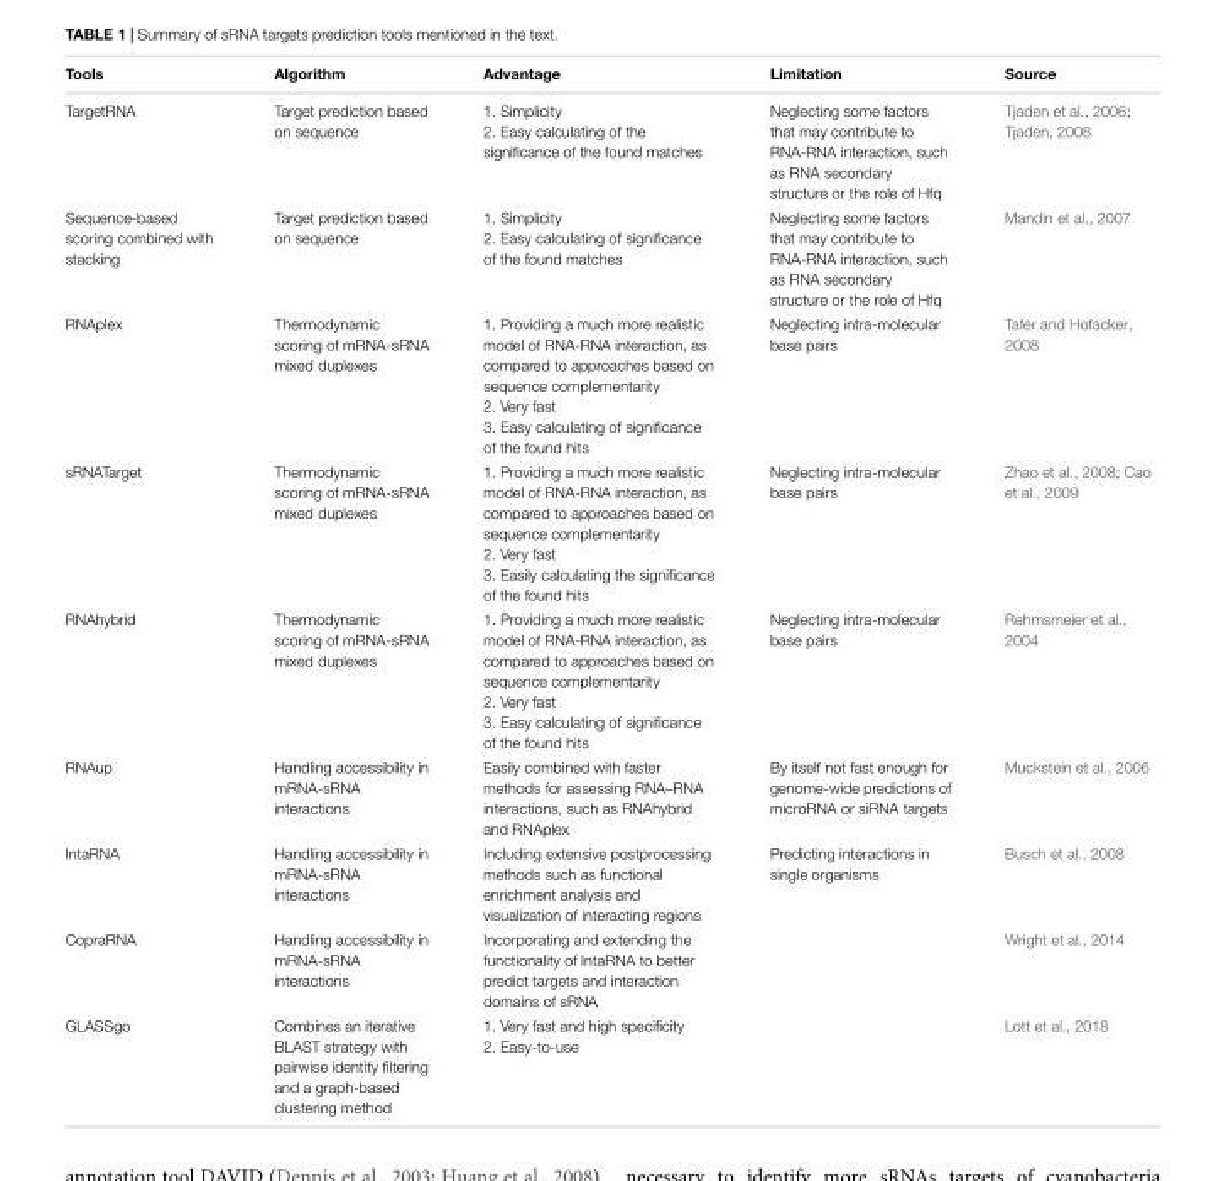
<table><thead><tr><td>Tools</td><td>Algorithm</td><td>Advantage</td><td>Limitation</td><td>Source</td></tr></thead><tbody><tr><td>TargetRNA</td><td>Target prediction based on sequence</td><td>1. Simplicity 2. Easy calculating of the significance of the found matches</td><td>Neglecting some factors that may contribute to RNA-RNA interaction, such as RNA secondary structure or the role of Hfq</td><td>Tjaden et al., 2006; Tjaden, 2008</td></tr><tr><td>Sequence-based scoring combined with stacking</td><td>Target prediction based on sequence</td><td>1. Simplicity 2. Easy calculating of significance of the found matches</td><td>Neglecting some factors that may contribute to RNA-RNA interaction, such as RNA secondary structure or the role of Hfq</td><td>Mandin et al., 2007</td></tr><tr><td>RNAplex</td><td>Thermodynamic scoring of mRNA-sRNA mixed duplexes</td><td>1. Providing a much more realistic model of RNA-RNA interaction, as compared to approaches based on sequence complementarity 2. Very fast 3. Easy calculating of significance of the found hits</td><td>Neglecting intra-molecular base pairs</td><td>Tafer and Hofacker, 2008</td></tr><tr><td>sRNATarget</td><td>Thermodynamic scoring of mRNA-sRNA mixed duplexes</td><td>1. Providing a much more realistic model of RNA-RNA interaction, as compared to approaches based on sequence complementarity 2. Very fast 3. Easily calculating the significance of the found hits</td><td>Neglecting intra-molecular base pairs</td><td>Zhao et al., 2008; Cao et al., 2009</td></tr><tr><td>RNAhybrid</td><td>Thermodynamic scoring of mRNA-sRNA mixed duplexes</td><td>1. Providing a much more realistic model of RNA-RNA interaction, as compared to approaches based on sequence complementarity 2. Very fast 3. Easy calculating of significance of the found hits</td><td>Neglecting intra-molecular base pairs</td><td>Rehmsmeier et al., 2004</td></tr><tr><td>RNAup</td><td>Handling accessibility in mRNA-sRNA interactions</td><td>Easily combined with faster methods for assessing RNA–RNA interactions, such as RNAhybrid and RNAplex</td><td>By itself not fast enough for genome-wide predictions of microRNA or siRNA targets</td><td>Muckstein et al., 2006</td></tr><tr><td>IntaRNA</td><td>Handling accessibility in mRNA-sRNA interactions</td><td>Including extensive postprocessing methods such as functional enrichment analysis and visualization of interacting regions</td><td>Predicting interactions in single organisms</td><td>Busch et al., 2008</td></tr><tr><td>CopraRNA</td><td>Handling accessibility in mRNA-sRNA interactions</td><td>Incorporating and extending the functionality of IntaRNA to better predict targets and interaction domains of sRNA</td><td></td><td>Wright et al., 2014</td></tr><tr><td>GLASSgo</td><td>Combines an iterative BLAST strategy with pairwise identity filtering and a graph-based clustering method</td><td>1. Very fast and high specificity 2. Easy-to-use</td><td></td><td>Lott et al., 2018</td></tr></tbody></table>